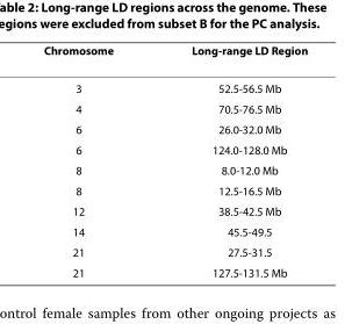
<table><thead><tr><td>Chromosome</td><td>Long-range LD Region</td></tr></thead><tbody><tr><td>3</td><td>52.5-56.5 Mb</td></tr><tr><td>4</td><td>70.5-76.5 Mb</td></tr><tr><td>6</td><td>26.0-32.0 Mb</td></tr><tr><td>6</td><td>124.0-128.0 Mb</td></tr><tr><td>8</td><td>8.0-12.0 Mb</td></tr><tr><td>8</td><td>12.5-16.5 Mb</td></tr><tr><td>12</td><td>38.5-42.5 Mb</td></tr><tr><td>14</td><td>45.5-49.5</td></tr><tr><td>21</td><td>27.5-31.5</td></tr><tr><td>21</td><td>127.5-131.5 Mb</td></tr></tbody></table>